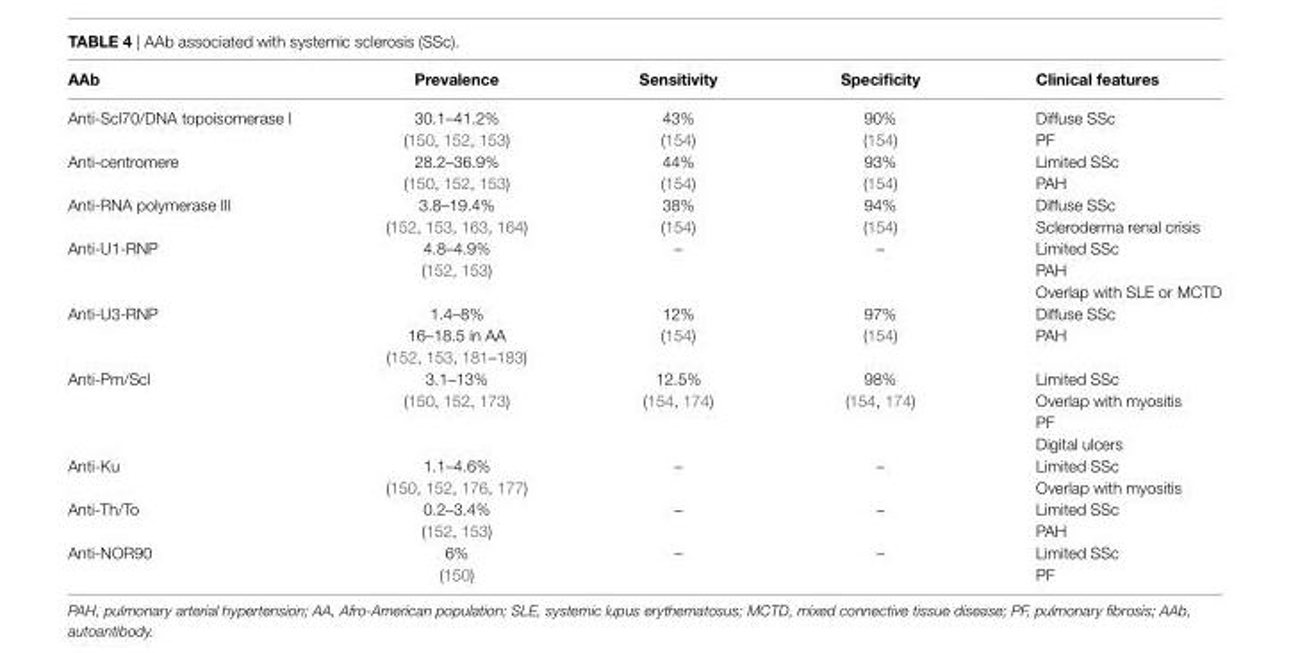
<table><thead><tr><td>AAb</td><td>Prevalence</td><td>Sensitivity</td><td>Specificity</td><td>Clinical features</td></tr></thead><tbody><tr><td>Anti-Scl70/DNA topoisomerase I</td><td>30.1–41.2% (150, 152, 153)</td><td>43% (154)</td><td>90% (154)</td><td>Diffuse SSc PF</td></tr><tr><td>Anti-centromere</td><td>28.2–36.9% (150, 152, 153)</td><td>44% (154)</td><td>93% (154)</td><td>Limited SSc PAH</td></tr><tr><td>Anti-RNA polymerase III</td><td>3.8–19.4% (152, 153, 163, 164)</td><td>38% (154)</td><td>94% (154)</td><td>Diffuse SSc Scleroderma renal crisis</td></tr><tr><td>Anti-U1-RNP</td><td>4.8–4.9% (152, 153)</td><td>–</td><td>–</td><td>Limited SSc PAH Overlap with SLE or MCTD</td></tr><tr><td>Anti-U3-RNP</td><td>1.4–8% 16–18.5 in AA (152, 153, 181–183)</td><td>12% (154)</td><td>97% (154)</td><td>Diffuse SSc PAH</td></tr><tr><td>Anti-Pm/Scl</td><td>3.1–13% (150, 152, 173)</td><td>12.5% (154, 174)</td><td>98% (154, 174)</td><td>Limited SSc Overlap with myositis PF Digital ulcers</td></tr><tr><td>Anti-Ku</td><td>1.1–4.6% (150, 152, 176, 177)</td><td>–</td><td>–</td><td>Limited SSc Overlap with myositis</td></tr><tr><td>Anti-Th/To</td><td>0.2–3.4% (152, 153)</td><td>–</td><td>–</td><td>Limited SSc PAH</td></tr><tr><td>Anti-NOR90</td><td>6% (150)</td><td>–</td><td>–</td><td>Limited SSc PF</td></tr></tbody></table>